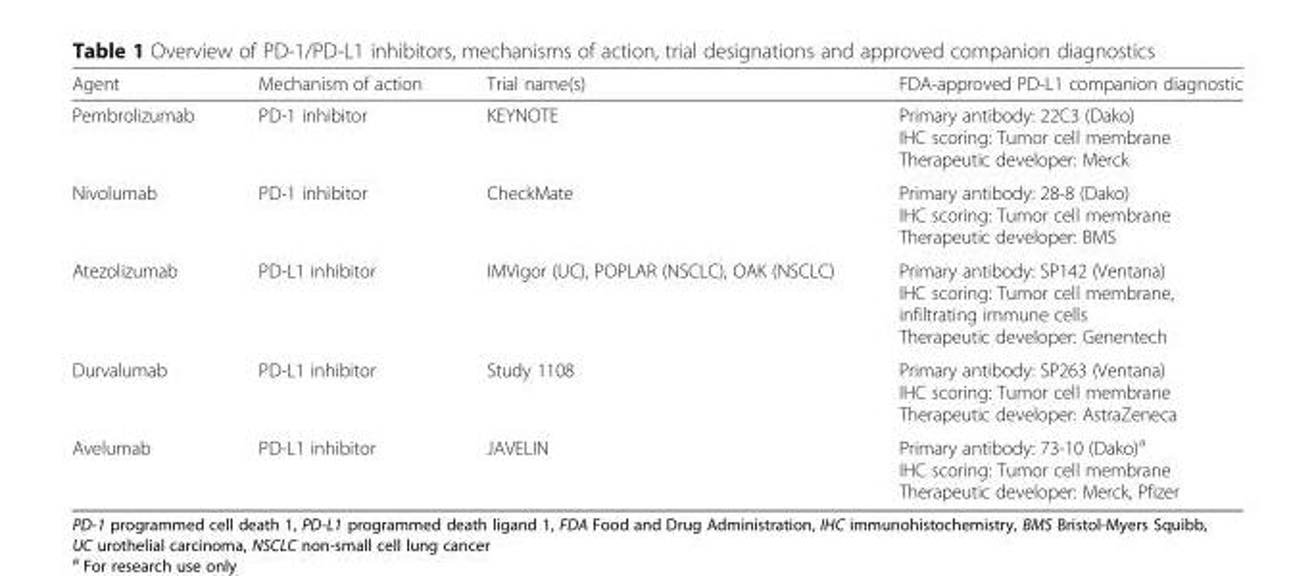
<table><thead><tr><td>Agent</td><td>Mechanism of action</td><td>Trial name(s)</td><td>FDA-approved PD-L1 companion diagnostic</td></tr></thead><tbody><tr><td>Pembrolizumab</td><td>PD-1 inhibitor</td><td>KEYNOTE</td><td>Primary antibody: 22C3 (Dako) IHC scoring: Tumor cell membrane Therapeutic developer: Merck</td></tr><tr><td>Nivolumab</td><td>PD-1 inhibitor</td><td>CheckMate</td><td>Primary antibody: 28-8 (Dako) IHC scoring: Tumor cell membrane Therapeutic developer: BMS</td></tr><tr><td>Atezolizumab</td><td>PD-L1 inhibitor</td><td>IMVigor (UC), POPLAR (NSCLC), OAK (NSCLC)</td><td>Primary antibody: SP142 (Ventana) IHC scoring: Tumor cell membrane, infiltrating immune cells Therapeutic developer: Genentech</td></tr><tr><td>Durvalumab</td><td>PD-L1 inhibitor</td><td>Study 1108</td><td>Primary antibody: SP263 (Ventana) IHC scoring: Tumor cell membrane Therapeutic developer: AstraZeneca</td></tr><tr><td>Avelumab</td><td>PD-L1 inhibitor</td><td>JAVELIN</td><td>Primary antibody: 73-10 (Dako)<sup>a</sup> IHC scoring: Tumor cell membrane Therapeutic developer: Merck, Pfizer</td></tr></tbody></table>